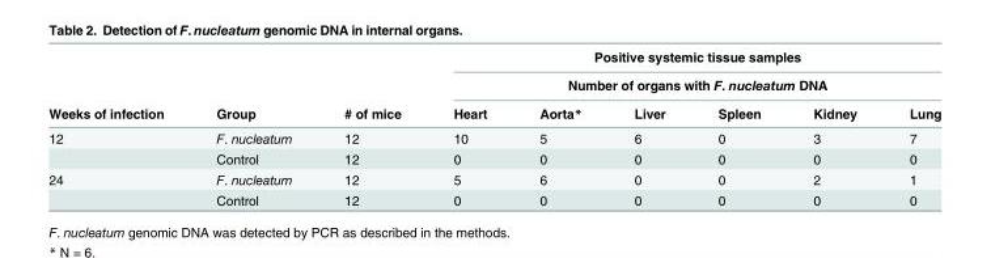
<table><thead><tr><td rowspan="3">Weeks of infection</td><td rowspan="3">Group</td><td rowspan="3"># of mice</td><td rowspan="2" colspan="6">Positive systemic tissue samples Number of organs with F. nucleatum DNA</td></tr><tr></tr><tr><td>Heart</td><td>Aorta*</td><td>Liver</td><td>Spleen</td><td>Kidney</td><td>Lung</td></tr></thead><tbody><tr><td rowspan="2">12</td><td>F. nucleatum</td><td>12</td><td>10</td><td>5</td><td>6</td><td>0</td><td>3</td><td>7</td></tr><tr><td>Control</td><td>12</td><td>0</td><td>0</td><td>0</td><td>0</td><td>0</td><td>0</td></tr><tr><td rowspan="2">24</td><td>F. nucleatum</td><td>12</td><td>5</td><td>6</td><td>0</td><td>0</td><td>2</td><td>1</td></tr><tr><td>Control</td><td>12</td><td>0</td><td>0</td><td>0</td><td>0</td><td>0</td><td>0</td></tr></tbody></table>